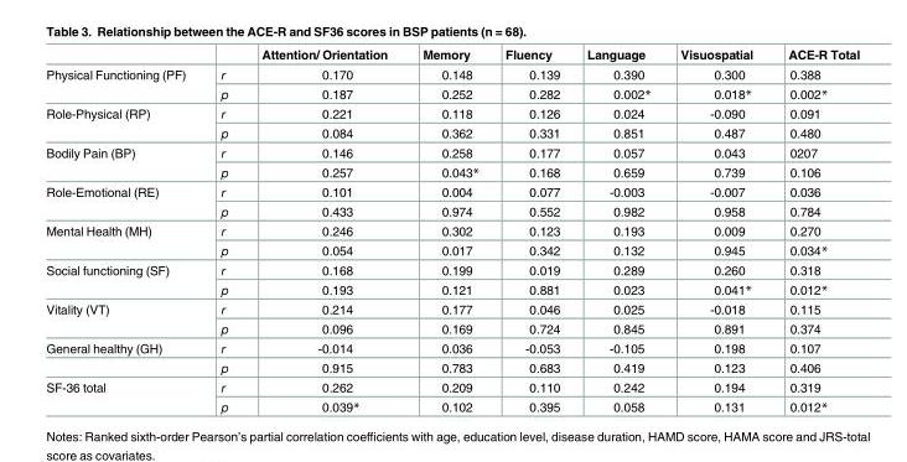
<table><thead><tr><td></td><td></td><td>Attention/ Orientation</td><td>Memory</td><td>Fluency</td><td>Language</td><td>Visuospatial</td><td>ACE-R Total</td></tr></thead><tbody><tr><td rowspan="2">Physical Functioning (PF)</td><td>r</td><td>0.170</td><td>0.148</td><td>0.139</td><td>0.390</td><td>0.300</td><td>0.388</td></tr><tr><td>p</td><td>0.187</td><td>0.252</td><td>0.282</td><td>0.002*</td><td>0.018*</td><td>0.002*</td></tr><tr><td rowspan="2">Role-Physical (RP)</td><td>r</td><td>0.221</td><td>0.118</td><td>0.126</td><td>0.024</td><td>-0.090</td><td>0.091</td></tr><tr><td>p</td><td>0.084</td><td>0.362</td><td>0.331</td><td>0.851</td><td>0.487</td><td>0.480</td></tr><tr><td rowspan="2">Bodily Pain (BP)</td><td>r</td><td>0.146</td><td>0.258</td><td>0.177</td><td>0.057</td><td>0.043</td><td>0207</td></tr><tr><td>p</td><td>0.257</td><td>0.043*</td><td>0.168</td><td>0.659</td><td>0.739</td><td>0.106</td></tr><tr><td rowspan="2">Role-Emotional (RE)</td><td>r</td><td>0.101</td><td>0.004</td><td>0.077</td><td>-0.003</td><td>-0.007</td><td>0.036</td></tr><tr><td>p</td><td>0.433</td><td>0.974</td><td>0.552</td><td>0.982</td><td>0.958</td><td>0.784</td></tr><tr><td rowspan="2">Mental Health (MH)</td><td>r</td><td>0.246</td><td>0.302</td><td>0.123</td><td>0.193</td><td>0.009</td><td>0.270</td></tr><tr><td>p</td><td>0.054</td><td>0.017</td><td>0.342</td><td>0.132</td><td>0.945</td><td>0.034*</td></tr><tr><td rowspan="2">Social functioning (SF)</td><td>r</td><td>0.168</td><td>0.199</td><td>0.019</td><td>0.289</td><td>0.260</td><td>0.318</td></tr><tr><td>p</td><td>0.193</td><td>0.121</td><td>0.881</td><td>0.023</td><td>0.041*</td><td>0.012*</td></tr><tr><td rowspan="2">Vitality (VT)</td><td>r</td><td>0.214</td><td>0.177</td><td>0.046</td><td>0.025</td><td>-0.018</td><td>0.115</td></tr><tr><td>p</td><td>0.096</td><td>0.169</td><td>0.724</td><td>0.845</td><td>0.891</td><td>0.374</td></tr><tr><td rowspan="2">General healthy (GH)</td><td>r</td><td>-0.014</td><td>0.036</td><td>-0.053</td><td>-0.105</td><td>0.198</td><td>0.107</td></tr><tr><td>p</td><td>0.915</td><td>0.783</td><td>0.683</td><td>0.419</td><td>0.123</td><td>0.406</td></tr><tr><td rowspan="2">SF-36 total</td><td>r</td><td>0.262</td><td>0.209</td><td>0.110</td><td>0.242</td><td>0.194</td><td>0.319</td></tr><tr><td>p</td><td>0.039*</td><td>0.102</td><td>0.395</td><td>0.058</td><td>0.131</td><td>0.012*</td></tr></tbody></table>